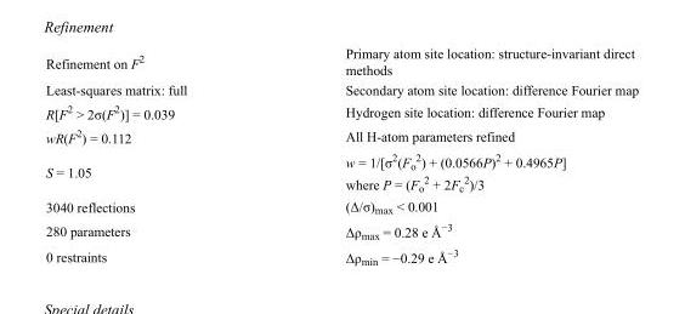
<table><tbody><tr><td>Refinement on F<sup>2</sup></td><td>Primary atom site location: structure-invariant direct methods</td></tr><tr><td>Least-squares matrix: full</td><td>Secondary atom site location: difference Fourier map</td></tr><tr><td>R[F<sup>2</sup> &gt; 2σ(F<sup>2</sup>)] = 0.039</td><td>Hydrogen site location: difference Fourier map</td></tr><tr><td>wR(F<sup>2</sup>) = 0.112</td><td>All H-atom parameters refined</td></tr><tr><td>S = 1.05</td><td>w = 1/[σ<sup>2</sup>(F<sub>o</sub> <sup>2</sup>) + (0.0566P)<sup>2</sup> + 0.4965P] where P = (F<sub>o</sub> <sup>2</sup> + 2F<sub>c</sub> <sup>2</sup>)/3</td></tr><tr><td>3040 reflections</td><td>(Δ/σ)<sub>max</sub> &lt; 0.001</td></tr><tr><td>280 parameters</td><td>Δρ<sub>max</sub> = 0.28 e Å<sup>−3</sup></td></tr><tr><td>0 restraints</td><td>Δρ<sub>min</sub> = −0.29 e Å<sup>−3</sup></td></tr></tbody></table>